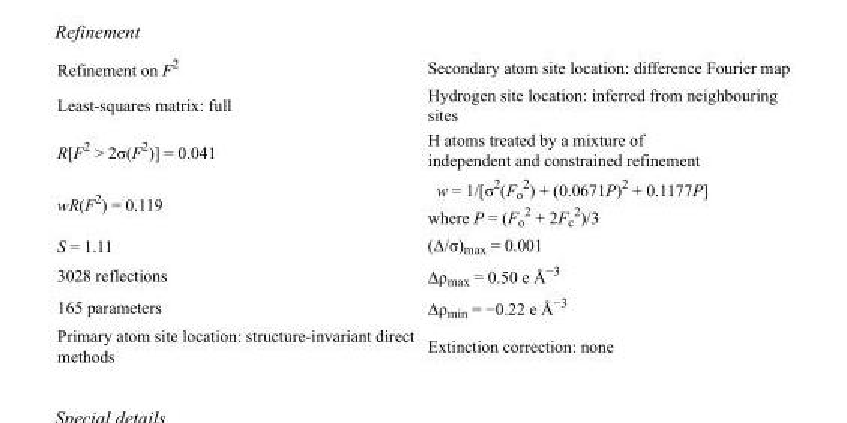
<table><tbody><tr><td>Refinement on F<sup>2</sup></td><td>Secondary atom site location: difference Fourier map</td></tr><tr><td>Least-squares matrix: full</td><td>Hydrogen site location: inferred from neighbouring sites</td></tr><tr><td>R[F<sup>2</sup> &gt; 2σ(F<sup>2</sup>)] = 0.041</td><td>H atoms treated by a mixture of independent and constrained refinement</td></tr><tr><td>wR(F<sup>2</sup>) = 0.119</td><td>w = 1/[σ<sup>2</sup>(F<sub>o</sub> <sup>2</sup>) + (0.0671P)<sup>2</sup> + 0.1177P] where P = (F<sub>o</sub> <sup>2</sup> + 2F<sub>c</sub> <sup>2</sup>)/3</td></tr><tr><td>S = 1.11</td><td>(Δ/σ)<sub>max</sub> = 0.001</td></tr><tr><td>3028 reflections</td><td>Δρ<sub>max</sub> = 0.50 e Å<sup>−3</sup></td></tr><tr><td>165 parameters</td><td>Δρ<sub>min</sub> = −0.22 e Å<sup>−3</sup></td></tr><tr><td>Primary atom site location: structure-invariant direct methods</td><td>Extinction correction: none</td></tr></tbody></table>